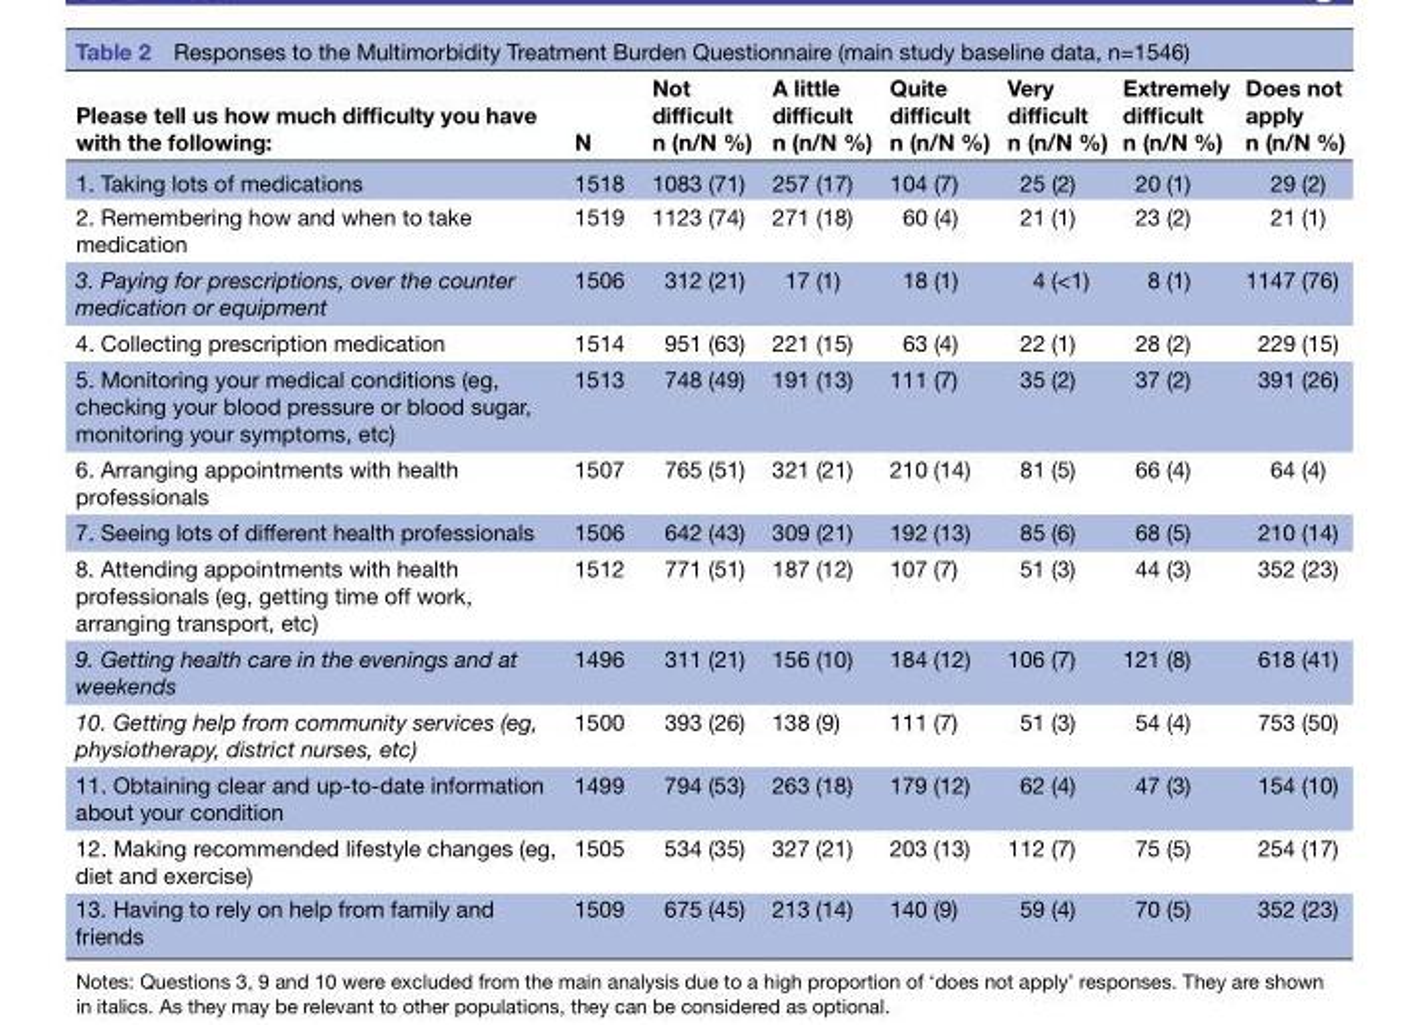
<table><thead><tr><td>Please tell us how much difficulty you have with the following:</td><td>N</td><td>Not difficult n (n/N %)</td><td>A little difficult n (n/N %)</td><td>Quite difficult n (n/N %)</td><td>Very difficult n (n/N %)</td><td>Extremely difficult n (n/N %)</td><td>Does not apply n (n/N %)</td></tr></thead><tbody><tr><td>1. Taking lots of medications</td><td>1518</td><td>1083 (71)</td><td>257 (17)</td><td>104 (7)</td><td>25 (2)</td><td>20 (1)</td><td>29 (2)</td></tr><tr><td>2. Remembering how and when to take medication</td><td>1519</td><td>1123 (74)</td><td>271 (18)</td><td>60 (4)</td><td>21 (1)</td><td>23 (2)</td><td>21 (1)</td></tr><tr><td>3. Paying for prescriptions, over the counter medication or equipment</td><td>1506</td><td>312 (21)</td><td>17 (1)</td><td>18 (1)</td><td>4 (&lt;1)</td><td>8 (1)</td><td>1147 (76)</td></tr><tr><td>4. Collecting prescription medication</td><td>1514</td><td>951 (63)</td><td>221 (15)</td><td>63 (4)</td><td>22 (1)</td><td>28 (2)</td><td>229 (15)</td></tr><tr><td>5. Monitoring your medical conditions (eg, checking your blood pressure or blood sugar, monitoring your symptoms, etc)</td><td>1513</td><td>748 (49)</td><td>191 (13)</td><td>111 (7)</td><td>35 (2)</td><td>37 (2)</td><td>391 (26)</td></tr><tr><td>6. Arranging appointments with health professionals</td><td>1507</td><td>765 (51)</td><td>321 (21)</td><td>210 (14)</td><td>81 (5)</td><td>66 (4)</td><td>64 (4)</td></tr><tr><td>7. Seeing lots of different health professionals</td><td>1506</td><td>642 (43)</td><td>309 (21)</td><td>192 (13)</td><td>85 (6)</td><td>68 (5)</td><td>210 (14)</td></tr><tr><td>8. Attending appointments with health professionals (eg, getting time off work, arranging transport, etc)</td><td>1512</td><td>771 (51)</td><td>187 (12)</td><td>107 (7)</td><td>51 (3)</td><td>44 (3)</td><td>352 (23)</td></tr><tr><td>9. Getting health care in the evenings and at weekends</td><td>1496</td><td>311 (21)</td><td>156 (10)</td><td>184 (12)</td><td>106 (7)</td><td>121 (8)</td><td>618 (41)</td></tr><tr><td>10. Getting help from community services (eg, physiotherapy, district nurses, etc)</td><td>1500</td><td>393 (26)</td><td>138 (9)</td><td>111 (7)</td><td>51 (3)</td><td>54 (4)</td><td>753 (50)</td></tr><tr><td>11. Obtaining clear and up-to-date information about your condition</td><td>1499</td><td>794 (53)</td><td>263 (18)</td><td>179 (12)</td><td>62 (4)</td><td>47 (3)</td><td>154 (10)</td></tr><tr><td>12. Making recommended lifestyle changes (eg, diet and exercise)</td><td>1505</td><td>534 (35)</td><td>327 (21)</td><td>203 (13)</td><td>112 (7)</td><td>75 (5)</td><td>254 (17)</td></tr><tr><td>13. Having to rely on help from family and friends</td><td>1509</td><td>675 (45)</td><td>213 (14)</td><td>140 (9)</td><td>59 (4)</td><td>70 (5)</td><td>352 (23)</td></tr></tbody></table>